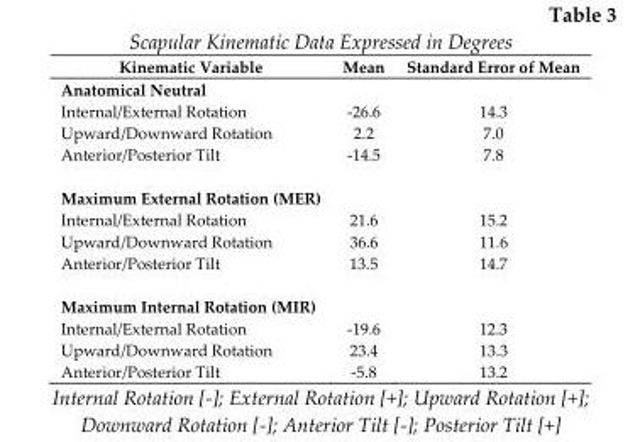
<table><thead><tr><td>Kinematic Variable</td><td>Mean</td><td>Standard Error of Mean</td></tr></thead><tbody><tr><td colspan="3">Anatomical Neutral</td></tr><tr><td>Internal/External Rotation</td><td>-26.6</td><td>14.3</td></tr><tr><td>Upward/Downward Rotation</td><td>2.2</td><td>7.0</td></tr><tr><td>Anterior/Posterior Tilt</td><td>-14.5</td><td>7.8</td></tr><tr><td colspan="3">Maximum External Rotation (MER)</td></tr><tr><td>Internal/External Rotation</td><td>21.6</td><td>15.2</td></tr><tr><td>Upward/Downward Rotation</td><td>36.6</td><td>11.6</td></tr><tr><td>Anterior/Posterior Tilt</td><td>13.5</td><td>14.7</td></tr><tr><td colspan="3">Maximum Internal Rotation (MIR)</td></tr><tr><td>Internal/External Rotation</td><td>-19.6</td><td>12.3</td></tr><tr><td>Upward/Downward Rotation</td><td>23.4</td><td>13.3</td></tr><tr><td>Anterior/Posterior Tilt</td><td>-5.8</td><td>13.2</td></tr></tbody></table>